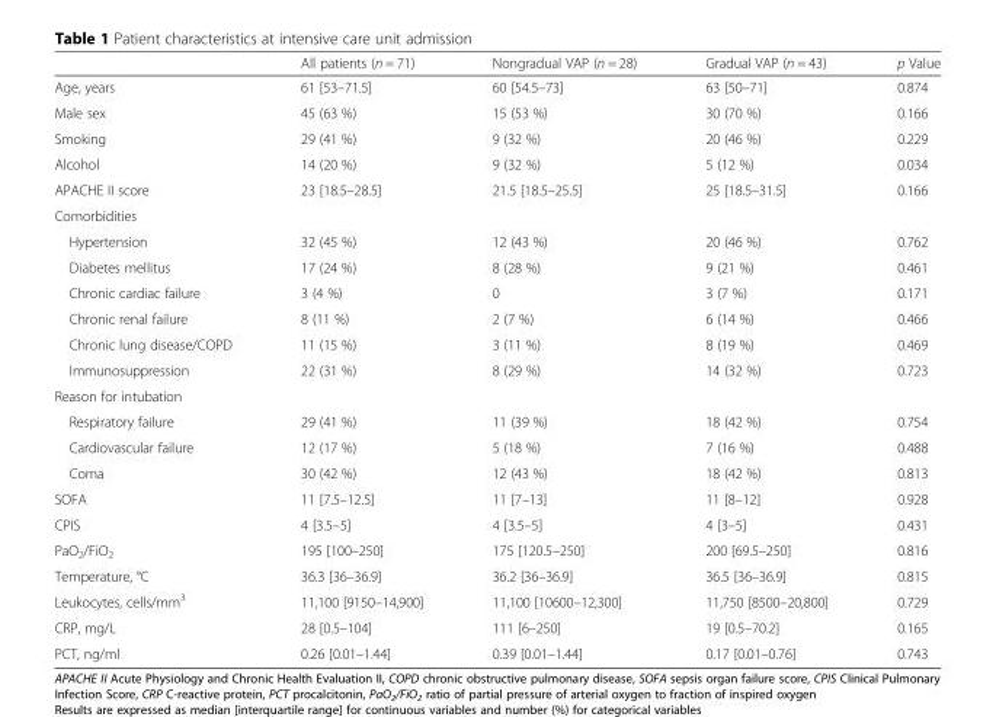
<table><thead><tr><td></td><td>All patients (n = 71)</td><td>Nongradual VAP (n = 28)</td><td>Gradual VAP (n = 43)</td><td>p Value</td></tr></thead><tbody><tr><td>Age, years</td><td>61 [53–71.5]</td><td>60 [54.5–73]</td><td>63 [50–71]</td><td>0.874</td></tr><tr><td>Male sex</td><td>45 (63 %)</td><td>15 (53 %)</td><td>30 (70 %)</td><td>0.166</td></tr><tr><td>Smoking</td><td>29 (41 %)</td><td>9 (32 %)</td><td>20 (46 %)</td><td>0.229</td></tr><tr><td>Alcohol</td><td>14 (20 %)</td><td>9 (32 %)</td><td>5 (12 %)</td><td>0.034</td></tr><tr><td>APACHE II score</td><td>23 [18.5–28.5]</td><td>21.5 [18.5–25.5]</td><td>25 [18.5–31.5]</td><td>0.166</td></tr><tr><td colspan="5">Comorbidities</td></tr><tr><td>Hypertension</td><td>32 (45 %)</td><td>12 (43 %)</td><td>20 (46 %)</td><td>0.762</td></tr><tr><td>Diabetes mellitus</td><td>17 (24 %)</td><td>8 (28 %)</td><td>9 (21 %)</td><td>0.461</td></tr><tr><td>Chronic cardiac failure</td><td>3 (4 %)</td><td>0</td><td>3 (7 %)</td><td>0.171</td></tr><tr><td>Chronic renal failure</td><td>8 (11 %)</td><td>2 (7 %)</td><td>6 (14 %)</td><td>0.466</td></tr><tr><td>Chronic lung disease/COPD</td><td>11 (15 %)</td><td>3 (11 %)</td><td>8 (19 %)</td><td>0.469</td></tr><tr><td>Immunosuppression</td><td>22 (31 %)</td><td>8 (29 %)</td><td>14 (32 %)</td><td>0.723</td></tr><tr><td colspan="5">Reason for intubation</td></tr><tr><td>Respiratory failure</td><td>29 (41 %)</td><td>11 (39 %)</td><td>18 (42 %)</td><td>0.754</td></tr><tr><td>Cardiovascular failure</td><td>12 (17 %)</td><td>5 (18 %)</td><td>7 (16 %)</td><td>0.488</td></tr><tr><td>Coma</td><td>30 (42 %)</td><td>12 (43 %)</td><td>18 (42 %)</td><td>0.813</td></tr><tr><td>SOFA</td><td>11 [7.5–12.5]</td><td>11 [7–13]</td><td>11 [8–12]</td><td>0.928</td></tr><tr><td>CPIS</td><td>4 [3.5–5]</td><td>4 [3.5–5]</td><td>4 [3–5]</td><td>0.431</td></tr><tr><td>PaO<sub>2</sub>/FiO<sub>2</sub></td><td>195 [100–250]</td><td>175 [120.5–250]</td><td>200 [69.5–250]</td><td>0.816</td></tr><tr><td>Temperature, °C</td><td>36.3 [36–36.9]</td><td>36.2 [36–36.9]</td><td>36.5 [36–36.9]</td><td>0.815</td></tr><tr><td>Leukocytes, cells/mm<sup>3</sup></td><td>11,100 [9150–14,900]</td><td>11,100 [10600–12,300]</td><td>11,750 [8500–20,800]</td><td>0.729</td></tr><tr><td>CRP, mg/L</td><td>28 [0.5–104]</td><td>111 [6–250]</td><td>19 [0.5–70.2]</td><td>0.165</td></tr><tr><td>PCT, ng/ml</td><td>0.26 [0.01–1.44]</td><td>0.39 [0.01–1.44]</td><td>0.17 [0.01–0.76]</td><td>0.743</td></tr></tbody></table>